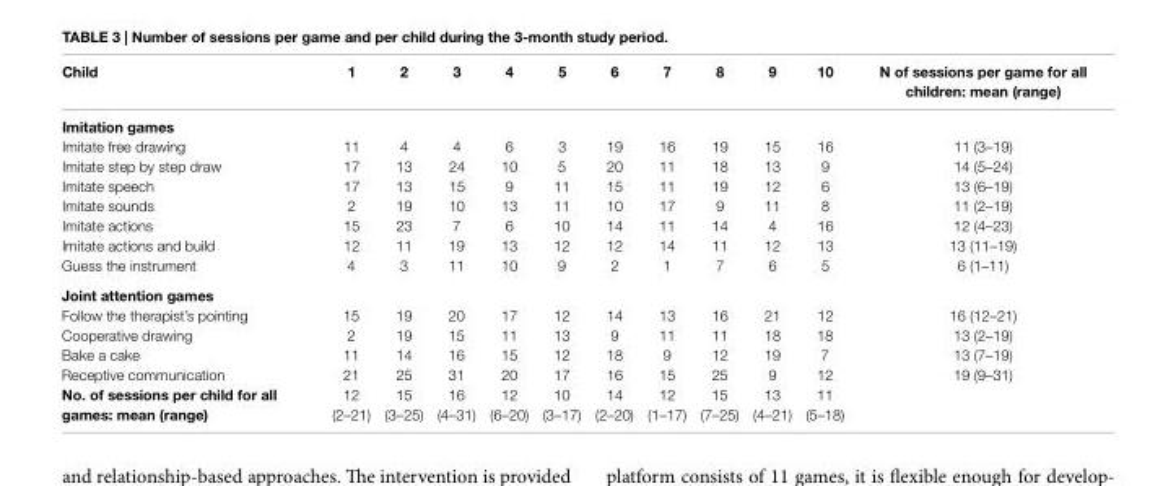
<table><thead><tr><td>Child</td><td>1</td><td>2</td><td>3</td><td>4</td><td>5</td><td>6</td><td>7</td><td>8</td><td>9</td><td>10</td><td>N of sessions per game for all children: mean (range)</td></tr></thead><tbody><tr><td colspan="12">Imitation games</td></tr><tr><td>Imitate free drawing</td><td>11</td><td>4</td><td>4</td><td>6</td><td>3</td><td>19</td><td>16</td><td>19</td><td>15</td><td>16</td><td>11 (3–19)</td></tr><tr><td>Imitate step by step draw</td><td>17</td><td>13</td><td>24</td><td>10</td><td>5</td><td>20</td><td>11</td><td>18</td><td>13</td><td>9</td><td>14 (5–24)</td></tr><tr><td>Imitate speech</td><td>17</td><td>13</td><td>15</td><td>9</td><td>11</td><td>15</td><td>11</td><td>19</td><td>12</td><td>6</td><td>13 (6–19)</td></tr><tr><td>Imitate sounds</td><td>2</td><td>19</td><td>10</td><td>13</td><td>11</td><td>10</td><td>17</td><td>9</td><td>11</td><td>8</td><td>11 (2–19)</td></tr><tr><td>Imitate actions</td><td>15</td><td>23</td><td>7</td><td>6</td><td>10</td><td>14</td><td>11</td><td>14</td><td>4</td><td>16</td><td>12 (4–23)</td></tr><tr><td>Imitate actions and build</td><td>12</td><td>11</td><td>19</td><td>13</td><td>12</td><td>12</td><td>14</td><td>11</td><td>12</td><td>13</td><td>13 (11–19)</td></tr><tr><td>Guess the instrument</td><td>4</td><td>3</td><td>11</td><td>10</td><td>9</td><td>2</td><td>1</td><td>7</td><td>6</td><td>5</td><td>6 (1–11)</td></tr><tr><td colspan="12">Joint attention games</td></tr><tr><td>Follow the therapist’s pointing</td><td>15</td><td>19</td><td>20</td><td>17</td><td>12</td><td>14</td><td>13</td><td>16</td><td>21</td><td>12</td><td>16 (12–21)</td></tr><tr><td>Cooperative drawing</td><td>2</td><td>19</td><td>15</td><td>11</td><td>13</td><td>9</td><td>11</td><td>11</td><td>18</td><td>18</td><td>13 (2–19)</td></tr><tr><td>Bake a cake</td><td>11</td><td>14</td><td>16</td><td>15</td><td>12</td><td>18</td><td>9</td><td>12</td><td>19</td><td>7</td><td>13 (7–19)</td></tr><tr><td>Receptive communication</td><td>21</td><td>25</td><td>31</td><td>20</td><td>17</td><td>16</td><td>15</td><td>25</td><td>9</td><td>12</td><td>19 (9–31)</td></tr><tr><td>No. of sessions per child for all games: mean (range)</td><td>12 (2–21)</td><td>15 (3–25)</td><td>16 (4–31)</td><td>12 (6–20)</td><td>10 (3–17)</td><td>14 (2–20)</td><td>12 (1–17)</td><td>15 (7–25)</td><td>13 (4–21)</td><td>11 (5–18)</td><td></td></tr></tbody></table>